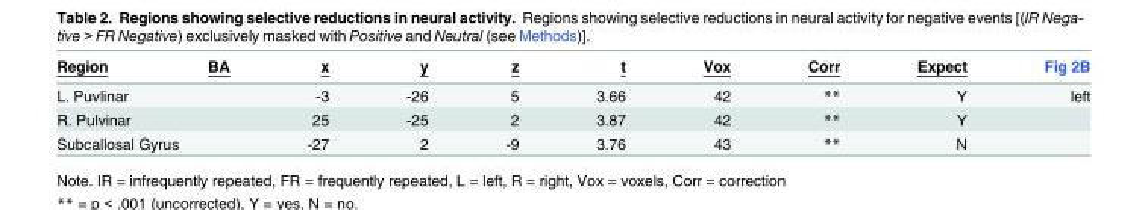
<table><thead><tr><td>Region</td><td>BA</td><td>x</td><td>y</td><td>z</td><td>t</td><td>Vox</td><td>Corr</td><td>Expect</td><td>Fig 2B</td></tr></thead><tbody><tr><td>L. Puvlinar</td><td></td><td>-3</td><td>-26</td><td>5</td><td>3.66</td><td>42</td><td>**</td><td>Y</td><td>left</td></tr><tr><td>R. Pulvinar</td><td></td><td>25</td><td>-25</td><td>2</td><td>3.87</td><td>42</td><td>**</td><td>Y</td><td></td></tr><tr><td colspan="2">Subcallosal Gyrus</td><td>-27</td><td>2</td><td>-9</td><td>3.76</td><td>43</td><td>**</td><td>N</td><td></td></tr></tbody></table>